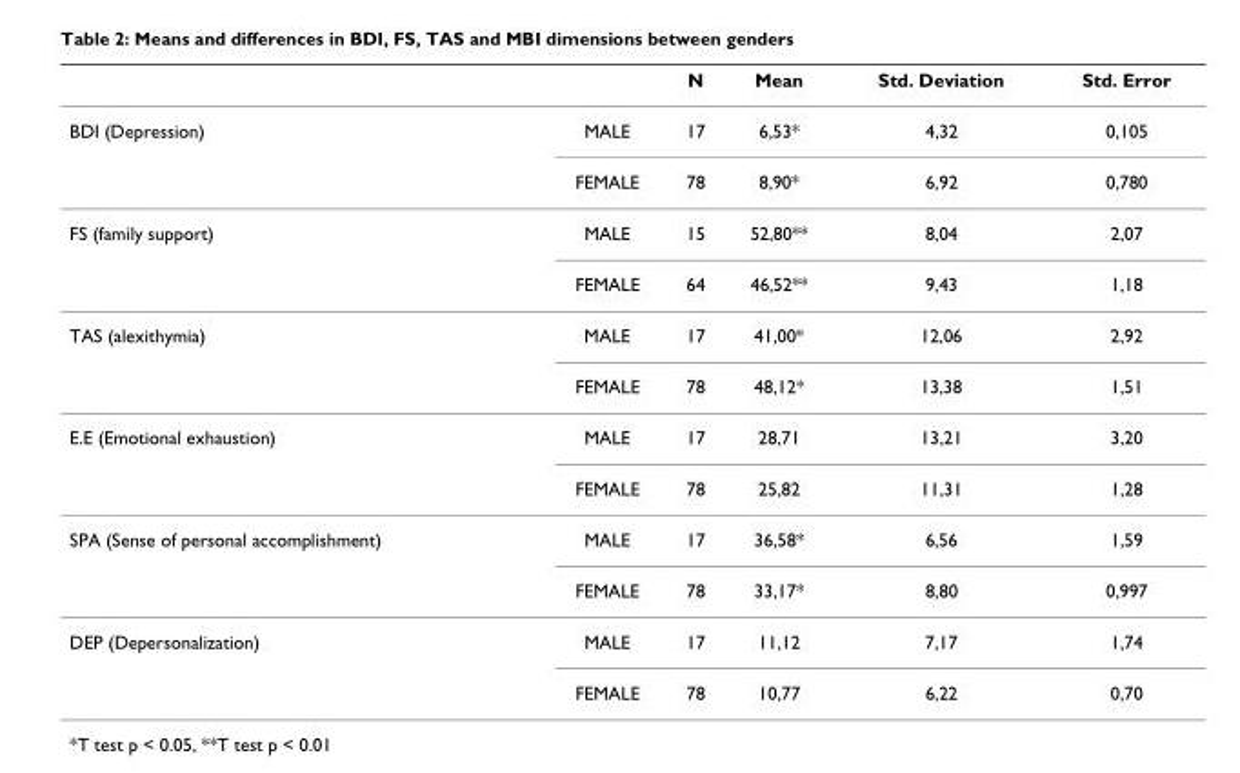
<table><thead><tr><td></td><td></td><td>N</td><td>Mean</td><td>Std. Deviation</td><td>Std. Error</td></tr></thead><tbody><tr><td rowspan="2">BDI (Depression)</td><td>MALE</td><td>17</td><td>6,53*</td><td>4,32</td><td>0,105</td></tr><tr><td>FEMALE</td><td>78</td><td>8,90*</td><td>6,92</td><td>0,780</td></tr><tr><td rowspan="2">FS (family support)</td><td>MALE</td><td>15</td><td>52,80**</td><td>8,04</td><td>2,07</td></tr><tr><td>FEMALE</td><td>64</td><td>46,52**</td><td>9,43</td><td>1,18</td></tr><tr><td rowspan="2">TAS (alexithymia)</td><td>MALE</td><td>17</td><td>41,00*</td><td>12,06</td><td>2,92</td></tr><tr><td>FEMALE</td><td>78</td><td>48,12*</td><td>13,38</td><td>1,51</td></tr><tr><td rowspan="2">E.E (Emotional exhaustion)</td><td>MALE</td><td>17</td><td>28,71</td><td>13,21</td><td>3,20</td></tr><tr><td>FEMALE</td><td>78</td><td>25,82</td><td>11,31</td><td>1,28</td></tr><tr><td rowspan="2">SPA (Sense of personal accomplishment)</td><td>MALE</td><td>17</td><td>36,58*</td><td>6,56</td><td>1,59</td></tr><tr><td>FEMALE</td><td>78</td><td>33,17*</td><td>8,80</td><td>0,997</td></tr><tr><td rowspan="2">DEP (Depersonalization)</td><td>MALE</td><td>17</td><td>11,12</td><td>7,17</td><td>1,74</td></tr><tr><td>FEMALE</td><td>78</td><td>10,77</td><td>6,22</td><td>0,70</td></tr></tbody></table>